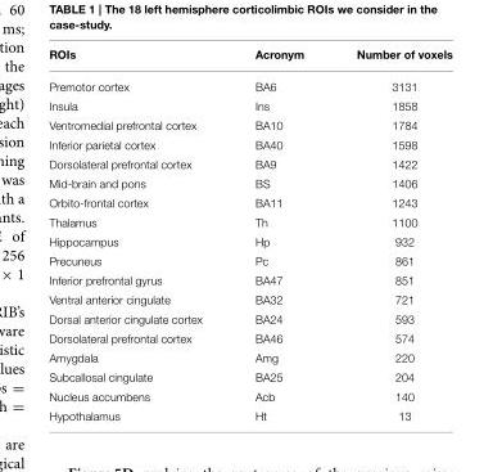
<table><thead><tr><td>ROIs</td><td>Acronym</td><td>Number of voxels</td></tr></thead><tbody><tr><td>Premotor cortex</td><td>BA6</td><td>3131</td></tr><tr><td>Insula</td><td>Ins</td><td>1858</td></tr><tr><td>Ventromedial prefrontal cortex</td><td>BA10</td><td>1784</td></tr><tr><td>Inferior parietal cortex</td><td>BA40</td><td>1598</td></tr><tr><td>Dorsolateral prefrontal cortex</td><td>BA9</td><td>1422</td></tr><tr><td>Mid-brain and pons</td><td>BS</td><td>1406</td></tr><tr><td>Orbito-frontal cortex</td><td>BA11</td><td>1243</td></tr><tr><td>Thalamus</td><td>Th</td><td>1100</td></tr><tr><td>Hippocampus</td><td>Hp</td><td>932</td></tr><tr><td>Precuneus</td><td>Pc</td><td>861</td></tr><tr><td>Inferior prefrontal gyrus</td><td>BA47</td><td>851</td></tr><tr><td>Ventral anterior cingulate</td><td>BA32</td><td>721</td></tr><tr><td>Dorsal anterior cingulate cortex</td><td>BA24</td><td>593</td></tr><tr><td>Dorsolateral prefrontal cortex</td><td>BA46</td><td>574</td></tr><tr><td>Amygdala</td><td>Amg</td><td>220</td></tr><tr><td>Subcallosal cingulate</td><td>BA25</td><td>204</td></tr><tr><td>Nucleus accumbens</td><td>Acb</td><td>140</td></tr><tr><td>Hypothalamus</td><td>Ht</td><td>13</td></tr></tbody></table>